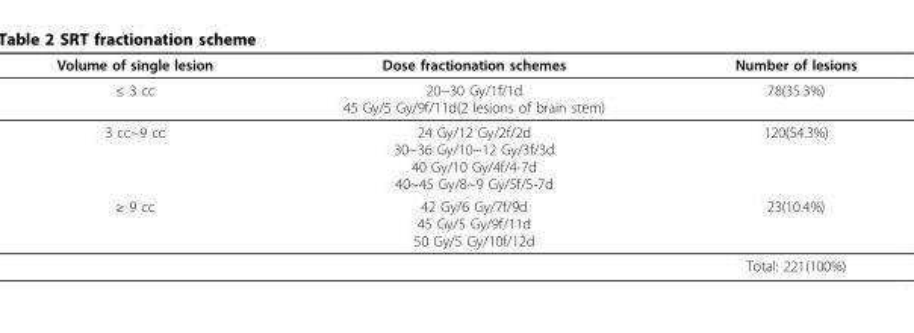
<table><thead><tr><td>Volume of single lesion</td><td>Dose fractionation schemes</td><td>Number of lesions</td></tr></thead><tbody><tr><td>≤ 3 cc</td><td>20~30 Gy/1f/1d 45 Gy/5 Gy/9f/11d(2 lesions of brain stem)</td><td>78(35.3%)</td></tr><tr><td>3 cc~9 cc</td><td>24 Gy/12 Gy/2f/2d 30~36 Gy/10~12 Gy/3f/3d 40 Gy/10 Gy/4f/4-7d 40~45 Gy/8~9 Gy/5f/5-7d</td><td>120(54.3%)</td></tr><tr><td rowspan="2">≥ 9 cc</td><td>42 Gy/6 Gy/7f/9d 45 Gy/5 Gy/9f/11d 50 Gy/5 Gy/10f/12d</td><td>23(10.4%)</td></tr><tr><td></td><td>Total: 221(100%)</td></tr></tbody></table>